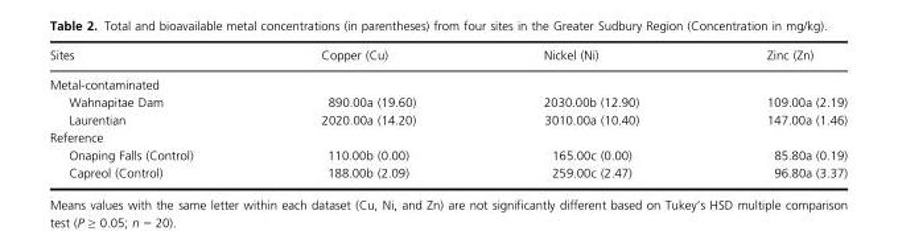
<table><thead><tr><td>Sites</td><td>Copper (Cu)</td><td>Nickel (Ni)</td><td>Zinc (Zn)</td></tr></thead><tbody><tr><td colspan="4">Metal-contaminated</td></tr><tr><td>Wahnapitae Dam</td><td>890.00a (19.60)</td><td>2030.00b (12.90)</td><td>109.00a (2.19)</td></tr><tr><td>Laurentian</td><td>2020.00a (14.20)</td><td>3010.00a (10.40)</td><td>147.00a (1.46)</td></tr><tr><td colspan="4">Reference</td></tr><tr><td>Onaping Falls (Control)</td><td>110.00b (0.00)</td><td>165.00c (0.00)</td><td>85.80a (0.19)</td></tr><tr><td>Capreol (Control)</td><td>188.00b (2.09)</td><td>259.00c (2.47)</td><td>96.80a (3.37)</td></tr></tbody></table>